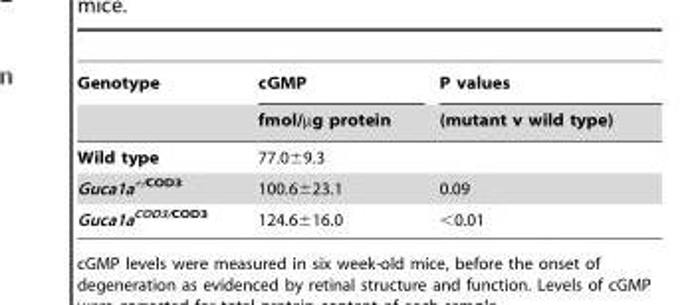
<table><thead><tr><td rowspan="2">Genotype</td><td rowspan="2">cGMP fmol/µg protein</td><td rowspan="2">P values (mutant v wild type)</td></tr><tr></tr></thead><tbody><tr><td>Wild type</td><td>77.0±9.3</td><td></td></tr><tr><td>Guca1a<sup>+/COD3</sup></td><td>100.6±23.1</td><td>0.09</td></tr><tr><td>Guca1a<sup>COD3/COD3</sup></td><td>124.6±16.0</td><td>&lt;0.01</td></tr></tbody></table>